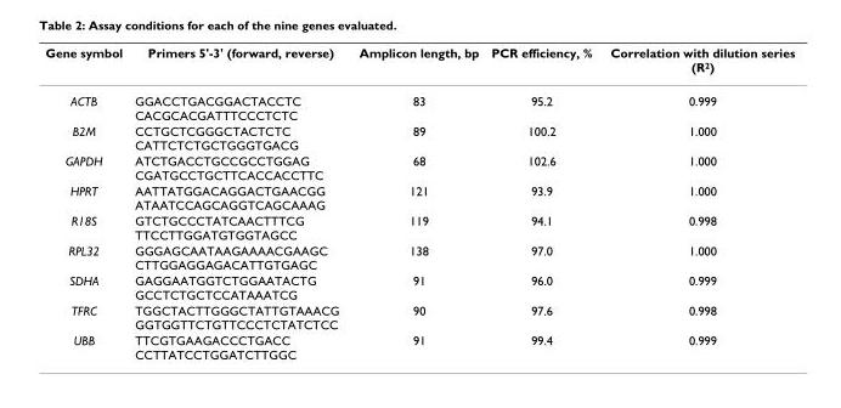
<table><thead><tr><td>Gene symbol</td><td>Primers 5&#x27;-3&#x27; (forward, reverse)</td><td>Amplicon length, bp</td><td>PCR efficiency, %</td><td>Correlation with dilution series (R<sup>2</sup>)</td></tr></thead><tbody><tr><td>ACTB</td><td>GGACCTGACGGACTACCTC CACGCACGATTTCCCTCTC</td><td>83</td><td>95.2</td><td>0.999</td></tr><tr><td>B2M</td><td>CCTGCTCGGGCTACTCTC CATTCTCTGCTGGGTGACG</td><td>89</td><td>100.2</td><td>1.000</td></tr><tr><td>GAPDH</td><td>ATCTGACCTGCCGCCTGGAG CGATGCCTGCTTCACCACCTTC</td><td>68</td><td>102.6</td><td>1.000</td></tr><tr><td>HPRT</td><td>AATTATGGACAGGACTGAACGG ATAATCCAGCAGGTCAGCAAAG</td><td>121</td><td>93.9</td><td>1.000</td></tr><tr><td>R18S</td><td>GTCTGCCCTATCAACTTTCG TTCCTTGGATGTGGTAGCC</td><td>119</td><td>94.1</td><td>0.998</td></tr><tr><td>RPL32</td><td>GGGAGCAATAAGAAAACGAAGC CTTGGAGGAGACATTGTGAGC</td><td>138</td><td>97.0</td><td>1.000</td></tr><tr><td>SDHA</td><td>GAGGAATGGTCTGGAATACTG GCCTCTGCTCCATAAATCG</td><td>91</td><td>96.0</td><td>0.999</td></tr><tr><td>TFRC</td><td>TGGCTACTTGGGCTATTGTAAACG GGTGGTTCTGTTCCCTCTATCTCC</td><td>90</td><td>97.6</td><td>0.998</td></tr><tr><td>UBB</td><td>TTCGTGAAGACCCTGACC CCTTATCCTGGATCTTGGC</td><td>91</td><td>99.4</td><td>0.999</td></tr></tbody></table>